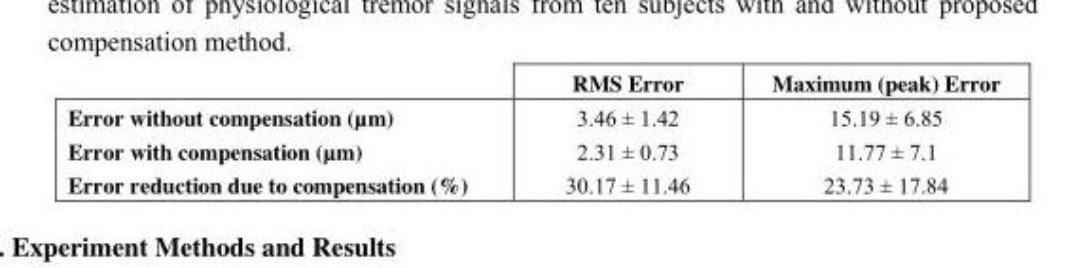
<table><thead><tr><td></td><td>RMS Error</td><td>Maximum (peak) Error</td></tr></thead><tbody><tr><td>Error without compensation (µm)</td><td>3.46 ± 1.42</td><td>15.19 ± 6.85</td></tr><tr><td>Error with compensation (µm)</td><td>2.31 ± 0.73</td><td>11.77 ± 7.1</td></tr><tr><td>Error reduction due to compensation (%)</td><td>30.17 ± 11.46</td><td>23.73 ± 17.84</td></tr></tbody></table>